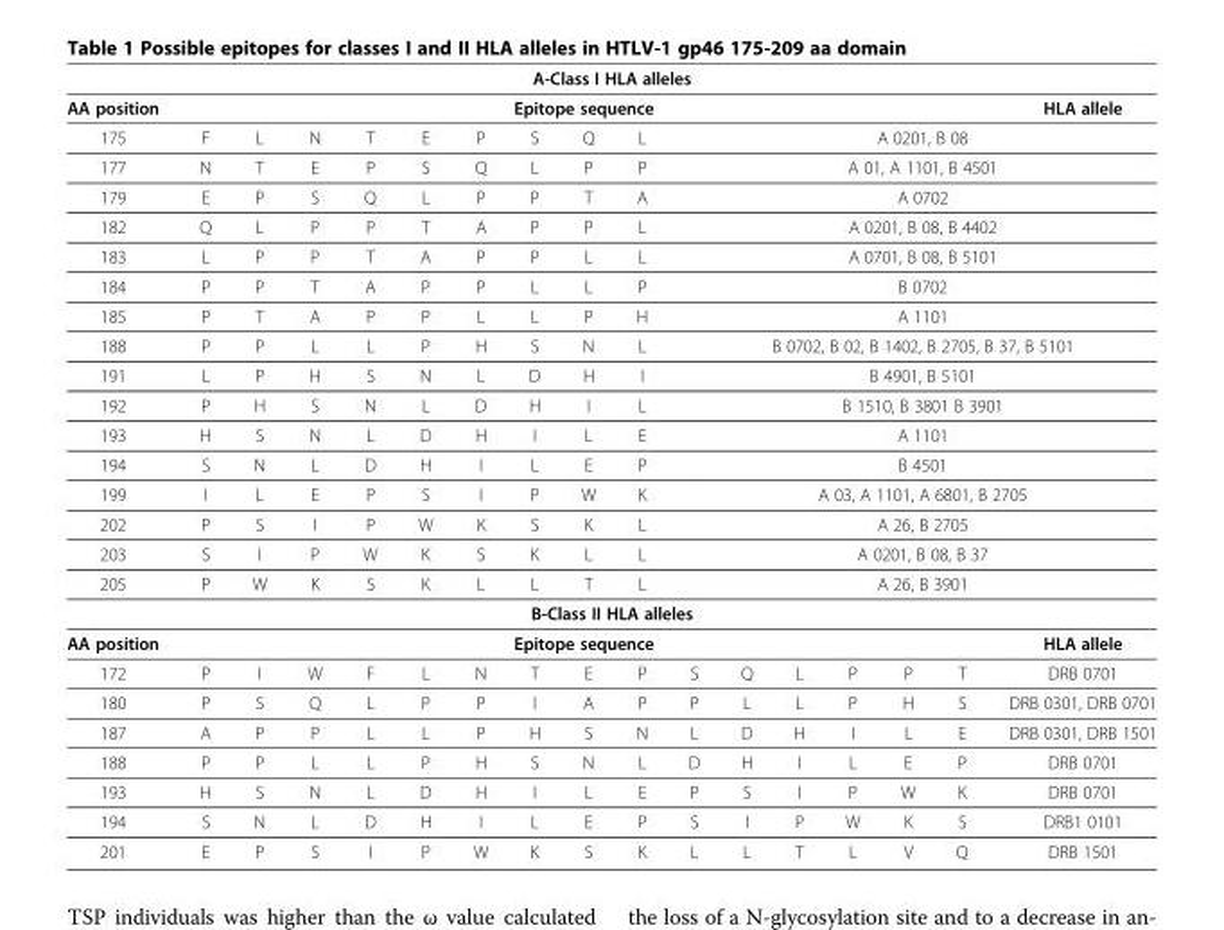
<table><tbody><tr><td colspan="17">A-Class I HLA alleles</td></tr><tr><td>AA position</td><td colspan="15">Epitope sequence</td><td>HLA allele</td></tr><tr><td>175</td><td>F</td><td>L</td><td>N</td><td>T</td><td>E</td><td>P</td><td>S</td><td>Q</td><td>L</td><td colspan="7">A 0201, B 08</td></tr><tr><td>177</td><td>N</td><td>T</td><td>E</td><td>P</td><td>S</td><td>Q</td><td>L</td><td>P</td><td>P</td><td colspan="7">A 01, A 1101, B 4501</td></tr><tr><td>179</td><td>E</td><td>P</td><td>S</td><td>Q</td><td>L</td><td>P</td><td>P</td><td>T</td><td>A</td><td colspan="7">A 0702</td></tr><tr><td>182</td><td>Q</td><td>L</td><td>P</td><td>P</td><td>T</td><td>A</td><td>P</td><td>P</td><td>L</td><td colspan="7">A 0201, B 08, B 4402</td></tr><tr><td>183</td><td>L</td><td>P</td><td>P</td><td>T</td><td>A</td><td>P</td><td>P</td><td>L</td><td>L</td><td colspan="7">A 0701, B 08, B 5101</td></tr><tr><td>184</td><td>P</td><td>P</td><td>T</td><td>A</td><td>P</td><td>P</td><td>L</td><td>L</td><td>P</td><td colspan="7">B 0702</td></tr><tr><td>185</td><td>P</td><td>T</td><td>A</td><td>P</td><td>P</td><td>L</td><td>L</td><td>P</td><td>H</td><td colspan="7">A 1101</td></tr><tr><td>188</td><td>P</td><td>P</td><td>L</td><td>L</td><td>P</td><td>H</td><td>S</td><td>N</td><td>L</td><td colspan="7">B 0702, B 02, B 1402, B 2705, B 37, B 5101</td></tr><tr><td>191</td><td>L</td><td>P</td><td>H</td><td>S</td><td>N</td><td>L</td><td>D</td><td>H</td><td>I</td><td colspan="7">B 4901, B 5101</td></tr><tr><td>192</td><td>P</td><td>H</td><td>S</td><td>N</td><td>L</td><td>D</td><td>H</td><td>I</td><td>L</td><td colspan="7">B 1510, B 3801 B 3901</td></tr><tr><td>193</td><td>H</td><td>S</td><td>N</td><td>L</td><td>D</td><td>H</td><td>I</td><td>L</td><td>E</td><td colspan="7">A 1101</td></tr><tr><td>194</td><td>S</td><td>N</td><td>L</td><td>D</td><td>H</td><td>I</td><td>L</td><td>E</td><td>P</td><td colspan="7">B 4501</td></tr><tr><td>199</td><td>I</td><td>L</td><td>E</td><td>P</td><td>S</td><td>I</td><td>P</td><td>W</td><td>K</td><td colspan="7">A 03, A 1101, A 6801, B 2705</td></tr><tr><td>202</td><td>P</td><td>S</td><td>I</td><td>P</td><td>W</td><td>K</td><td>S</td><td>K</td><td>L</td><td colspan="7">A 26, B 2705</td></tr><tr><td>203</td><td>S</td><td>I</td><td>P</td><td>W</td><td>K</td><td>S</td><td>K</td><td>L</td><td>L</td><td colspan="7">A 0201, B 08, B 37</td></tr><tr><td>205</td><td>P</td><td>W</td><td>K</td><td>S</td><td>K</td><td>L</td><td>L</td><td>T</td><td>L</td><td colspan="7">A 26, B 3901</td></tr><tr><td colspan="17">B-Class II HLA alleles</td></tr><tr><td>AA position</td><td colspan="15">Epitope sequence</td><td>HLA allele</td></tr><tr><td>172</td><td>P</td><td>I</td><td>W</td><td>F</td><td>L</td><td>N</td><td>T</td><td>E</td><td>P</td><td>S</td><td>Q</td><td>L</td><td>P</td><td>P</td><td>T</td><td>DRB 0701</td></tr><tr><td>180</td><td>P</td><td>S</td><td>Q</td><td>L</td><td>P</td><td>P</td><td>I</td><td>A</td><td>P</td><td>P</td><td>L</td><td>L</td><td>P</td><td>H</td><td>S</td><td>DRB 0301, DRB 0701</td></tr><tr><td>187</td><td>A</td><td>P</td><td>P</td><td>L</td><td>L</td><td>P</td><td>H</td><td>S</td><td>N</td><td>L</td><td>D</td><td>H</td><td>I</td><td>L</td><td>E</td><td>DRB 0301, DRB 1501</td></tr><tr><td>188</td><td>P</td><td>P</td><td>L</td><td>L</td><td>P</td><td>H</td><td>S</td><td>N</td><td>L</td><td>D</td><td>H</td><td>I</td><td>L</td><td>E</td><td>P</td><td>DRB 0701</td></tr><tr><td>193</td><td>H</td><td>S</td><td>N</td><td>L</td><td>D</td><td>H</td><td>I</td><td>L</td><td>E</td><td>P</td><td>S</td><td>I</td><td>P</td><td>W</td><td>K</td><td>DRB 0701</td></tr><tr><td>194</td><td>S</td><td>N</td><td>L</td><td>D</td><td>H</td><td>I</td><td>L</td><td>E</td><td>P</td><td>S</td><td>I</td><td>P</td><td>W</td><td>K</td><td>S</td><td>DRB1 0101</td></tr><tr><td>201</td><td>E</td><td>P</td><td>S</td><td>I</td><td>P</td><td>W</td><td>K</td><td>S</td><td>K</td><td>L</td><td>L</td><td>T</td><td>L</td><td>V</td><td>Q</td><td>DRB 1501</td></tr></tbody></table>